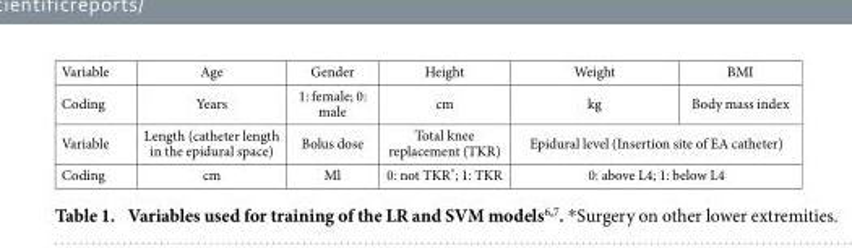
<table><tbody><tr><td>Variable</td><td>Age</td><td>Gender</td><td>Height</td><td>Weight</td><td>BMI</td></tr><tr><td>Coding</td><td>Years</td><td>1: female; 0: male</td><td>cm</td><td>kg</td><td>Body mass index</td></tr><tr><td>Variable</td><td>Length (catheter length in the epidural space)</td><td>Bolus dose</td><td>Total knee replacement (TKR)</td><td colspan="2">Epidural level (Insertion site of EA catheter)</td></tr><tr><td>Coding</td><td>cm</td><td>Ml</td><td>0: not TKR*; 1: TKR</td><td colspan="2">0: above L4; 1: below L4</td></tr></tbody></table>